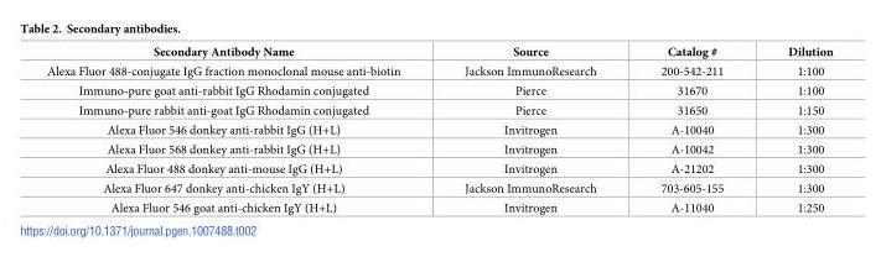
<table><thead><tr><td>Secondary Antibody Name</td><td>Source</td><td>Catalog #</td><td>Dilution</td></tr></thead><tbody><tr><td>Alexa Fluor 488-conjugate IgG fraction monoclonal mouse anti-biotin</td><td>Jackson ImmunoResearch</td><td>200-542-211</td><td>1:100</td></tr><tr><td>Immuno-pure goat anti-rabbit IgG Rhodamin conjugated</td><td>Pierce</td><td>31670</td><td>1:100</td></tr><tr><td>Immuno-pure rabbit anti-goat IgG Rhodamin conjugated</td><td>Pierce</td><td>31650</td><td>1:150</td></tr><tr><td>Alexa Fluor 546 donkey anti-rabbit IgG (H+L)</td><td>Invitrogen</td><td>A-10040</td><td>1:300</td></tr><tr><td>Alexa Fluor 568 donkey anti-rabbit IgG (H+L)</td><td>Invitrogen</td><td>A-10042</td><td>1:300</td></tr><tr><td>Alexa Fluor 488 donkey anti-mouse IgG (H+L)</td><td>Invitrogen</td><td>A-21202</td><td>1:300</td></tr><tr><td>Alexa Fluor 647 donkey anti-chicken IgY (H+L)</td><td>Jackson ImmunoResearch</td><td>703-605-155</td><td>1:300</td></tr><tr><td>Alexa Fluor 546 goat anti-chicken IgY (H+L)</td><td>Invitrogen</td><td>A-11040</td><td>1:250</td></tr></tbody></table>